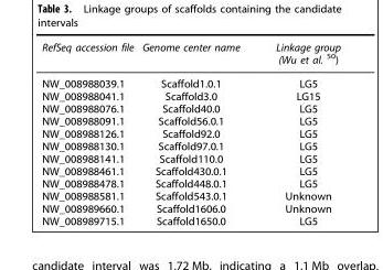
<table><thead><tr><td>RefSeq accession file</td><td>Genome center name</td><td>Linkage group (Wu et al. <sup>50</sup>)</td></tr></thead><tbody><tr><td>NW_008988039.1</td><td>Scaffold1.0.1</td><td>LG5</td></tr><tr><td>NW_008988041.1</td><td>Scaffold3.0</td><td>LG15</td></tr><tr><td>NW_008988076.1</td><td>Scaffold40.0</td><td>LG5</td></tr><tr><td>NW_008988091.1</td><td>Scaffold56.0.1</td><td>LG5</td></tr><tr><td>NW_008988126.1</td><td>Scaffold92.0</td><td>LG5</td></tr><tr><td>NW_008988130.1</td><td>Scaffold97.0.1</td><td>LG5</td></tr><tr><td>NW_008988141.1</td><td>Scaffold110.0</td><td>LG5</td></tr><tr><td>NW_008988461.1</td><td>Scaffold430.0.1</td><td>LG5</td></tr><tr><td>NW_008988478.1</td><td>Scaffold448.0.1</td><td>LG5</td></tr><tr><td>NW_008988581.1</td><td>Scaffold543.0.1</td><td>Unknown</td></tr><tr><td>NW_008989660.1</td><td>Scaffold1606.0</td><td>Unknown</td></tr><tr><td>NW_008989715.1</td><td>Scaffold1650.0</td><td>LG5</td></tr></tbody></table>